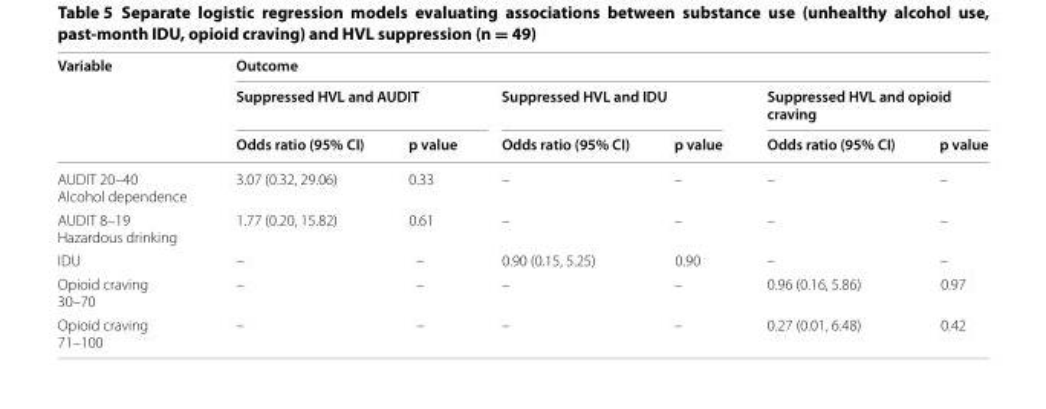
<table><thead><tr><td rowspan="3">Variable</td><td colspan="6">Outcome</td></tr><tr><td colspan="2">Suppressed HVL and AUDIT</td><td colspan="2">Suppressed HVL and IDU</td><td colspan="2">Suppressed HVL and opioid craving</td></tr><tr><td>Odds ratio (95% CI)</td><td>p value</td><td>Odds ratio (95% CI)</td><td>p value</td><td>Odds ratio (95% CI)</td><td>p value</td></tr></thead><tbody><tr><td>AUDIT 20–40 Alcohol dependence</td><td>3.07 (0.32, 29.06)</td><td>0.33</td><td>–</td><td>–</td><td>–</td><td>–</td></tr><tr><td>AUDIT 8–19 Hazardous drinking</td><td>1.77 (0.20, 15.82)</td><td>0.61</td><td>–</td><td>–</td><td>–</td><td>–</td></tr><tr><td>IDU</td><td>–</td><td>–</td><td>0.90 (0.15, 5.25)</td><td>0.90</td><td>–</td><td>–</td></tr><tr><td>Opioid craving 30–70</td><td>–</td><td>–</td><td>–</td><td>–</td><td>0.96 (0.16, 5.86)</td><td>0.97</td></tr><tr><td>Opioid craving 71–100</td><td>–</td><td>–</td><td>–</td><td>–</td><td>0.27 (0.01, 6.48)</td><td>0.42</td></tr></tbody></table>